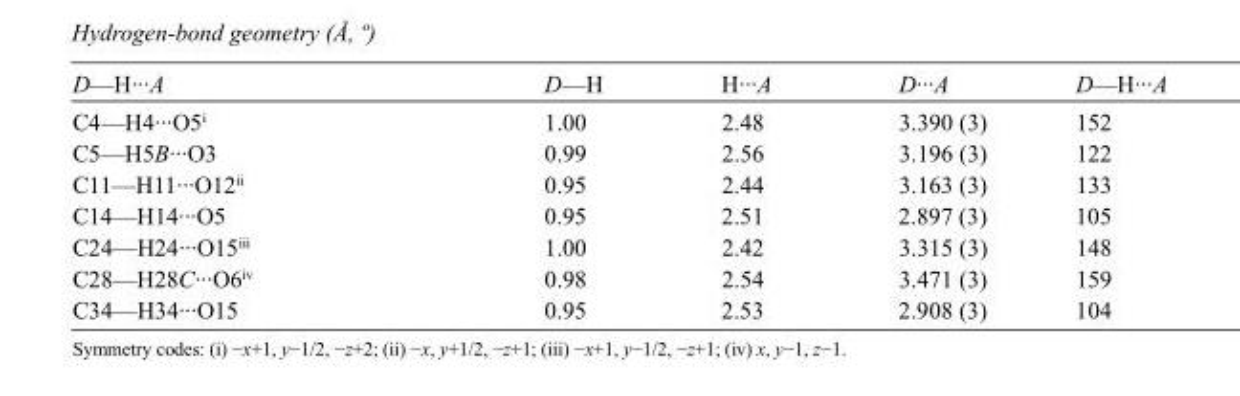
<table><tbody><tr><td>D—H···A</td><td>D—H</td><td>H···A</td><td>D···A</td><td>D—H···A</td></tr><tr><td>C4—H4···O5<sup>i</sup></td><td>1.00</td><td>2.48</td><td>3.390 (3)</td><td>152</td></tr><tr><td>C5—H5B···O3</td><td>0.99</td><td>2.56</td><td>3.196 (3)</td><td>122</td></tr><tr><td>C11—H11···O12<sup>ii</sup></td><td>0.95</td><td>2.44</td><td>3.163 (3)</td><td>133</td></tr><tr><td>C14—H14···O5</td><td>0.95</td><td>2.51</td><td>2.897 (3)</td><td>105</td></tr><tr><td>C24—H24···O15<sup>iii</sup></td><td>1.00</td><td>2.42</td><td>3.315 (3)</td><td>148</td></tr><tr><td>C28—H28C···O6<sup>iv</sup></td><td>0.98</td><td>2.54</td><td>3.471 (3)</td><td>159</td></tr><tr><td>C34—H34···O15</td><td>0.95</td><td>2.53</td><td>2.908 (3)</td><td>104</td></tr></tbody></table>